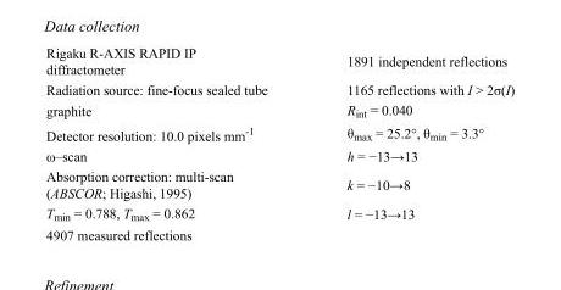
<table><tbody><tr><td>Rigaku R-AXIS RAPID IP diffractometer</td><td>1891 independent reflections</td></tr><tr><td>Radiation source: fine-focus sealed tube</td><td>1165 reflections with I &gt; 2σ(I)</td></tr><tr><td>graphite</td><td>R<sub>int</sub> = 0.040</td></tr><tr><td>Detector resolution: 10.0 pixels mm<sup>-1</sup></td><td>θ<sub>max</sub> = 25.2°, θ<sub>min</sub> = 3.3°</td></tr><tr><td>ω–scan</td><td>h = −13→13</td></tr><tr><td>Absorption correction: multi-scan (ABSCOR; Higashi, 1995)</td><td>k = −10→8</td></tr><tr><td>T<sub>min</sub> = 0.788, T<sub>max</sub> = 0.862</td><td>l = −13→13</td></tr><tr><td>4907 measured reflections</td><td></td></tr></tbody></table>